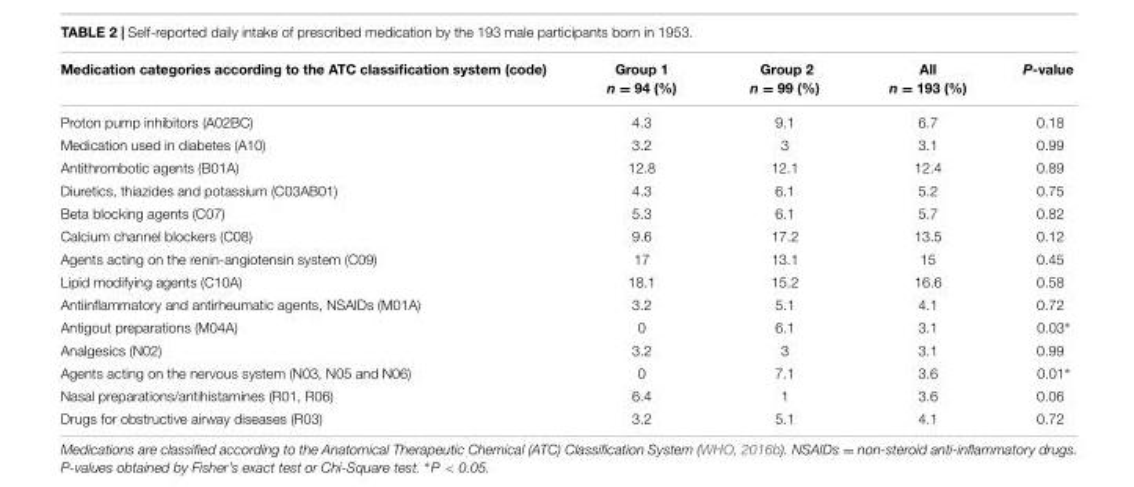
<table><thead><tr><td>Medication categories according to the ATC classification system (code)</td><td>Group 1 n = 94 (%)</td><td>Group 2 n = 99 (%)</td><td>All n = 193 (%)</td><td>P-value</td></tr></thead><tbody><tr><td>Proton pump inhibitors (A02BC)</td><td>4.3</td><td>9.1</td><td>6.7</td><td>0.18</td></tr><tr><td>Medication used in diabetes (A10)</td><td>3.2</td><td>3</td><td>3.1</td><td>0.99</td></tr><tr><td>Antithrombotic agents (B01A)</td><td>12.8</td><td>12.1</td><td>12.4</td><td>0.89</td></tr><tr><td>Diuretics, thiazides and potassium (C03AB01)</td><td>4.3</td><td>6.1</td><td>5.2</td><td>0.75</td></tr><tr><td>Beta blocking agents (C07)</td><td>5.3</td><td>6.1</td><td>5.7</td><td>0.82</td></tr><tr><td>Calcium channel blockers (C08)</td><td>9.6</td><td>17.2</td><td>13.5</td><td>0.12</td></tr><tr><td>Agents acting on the renin-angiotensin system (C09)</td><td>17</td><td>13.1</td><td>15</td><td>0.45</td></tr><tr><td>Lipid modifying agents (C10A)</td><td>18.1</td><td>15.2</td><td>16.6</td><td>0.58</td></tr><tr><td>Antiinflammatory and antirheumatic agents, NSAIDs (M01A)</td><td>3.2</td><td>5.1</td><td>4.1</td><td>0.72</td></tr><tr><td>Antigout preparations (M04A)</td><td>0</td><td>6.1</td><td>3.1</td><td>0.03∗</td></tr><tr><td>Analgesics (N02)</td><td>3.2</td><td>3</td><td>3.1</td><td>0.99</td></tr><tr><td>Agents acting on the nervous system (N03, N05 and N06)</td><td>0</td><td>7.1</td><td>3.6</td><td>0.01∗</td></tr><tr><td>Nasal preparations/antihistamines (R01, R06)</td><td>6.4</td><td>1</td><td>3.6</td><td>0.06</td></tr><tr><td>Drugs for obstructive airway diseases (R03)</td><td>3.2</td><td>5.1</td><td>4.1</td><td>0.72</td></tr></tbody></table>